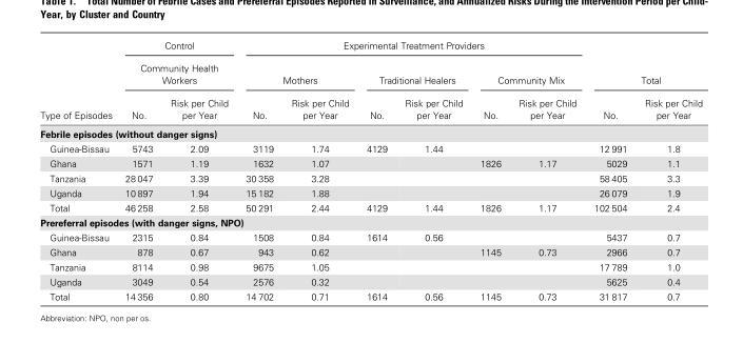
<table><thead><tr><td rowspan="3">Type of Episodes</td><td rowspan="2" colspan="2">Control Community Health Workers</td><td colspan="6">Experimental Treatment Providers</td><td rowspan="2" colspan="2">Total</td></tr><tr><td colspan="2">Mothers</td><td colspan="2">Traditional Healers</td><td colspan="2">Community Mix</td></tr><tr><td>No.</td><td>Risk per Child per Year</td><td>No.</td><td>Risk per Child per Year</td><td>No.</td><td>Risk per Child per Year</td><td>No.</td><td>Risk per Child per Year</td><td>No.</td><td>Risk per Child per Year</td></tr></thead><tbody><tr><td colspan="11">Febrile episodes (without danger signs)</td></tr><tr><td>Guinea-Bissau</td><td>5743</td><td>2.09</td><td>3119</td><td>1.74</td><td>4129</td><td>1.44</td><td></td><td></td><td>12 991</td><td>1.8</td></tr><tr><td>Ghana</td><td>1571</td><td>1.19</td><td>1632</td><td>1.07</td><td></td><td></td><td>1826</td><td>1.17</td><td>5029</td><td>1.1</td></tr><tr><td>Tanzania</td><td>28 047</td><td>3.39</td><td>30 358</td><td>3.28</td><td></td><td></td><td></td><td></td><td>58 405</td><td>3.3</td></tr><tr><td>Uganda</td><td>10 897</td><td>1.94</td><td>15 182</td><td>1.88</td><td></td><td></td><td></td><td></td><td>26 079</td><td>1.9</td></tr><tr><td>Total</td><td>46 258</td><td>2.58</td><td>50 291</td><td>2.44</td><td>4129</td><td>1.44</td><td>1826</td><td>1.17</td><td>102 504</td><td>2.4</td></tr><tr><td colspan="11">Prereferral episodes (with danger signs, NPO)</td></tr><tr><td>Guinea-Bissau</td><td>2315</td><td>0.84</td><td>1508</td><td>0.84</td><td>1614</td><td>0.56</td><td></td><td></td><td>5437</td><td>0.7</td></tr><tr><td>Ghana</td><td>878</td><td>0.67</td><td>943</td><td>0.62</td><td></td><td></td><td>1145</td><td>0.73</td><td>2966</td><td>0.7</td></tr><tr><td>Tanzania</td><td>8114</td><td>0.98</td><td>9675</td><td>1.05</td><td></td><td></td><td></td><td></td><td>17 789</td><td>1.0</td></tr><tr><td>Uganda</td><td>3049</td><td>0.54</td><td>2576</td><td>0.32</td><td></td><td></td><td></td><td></td><td>5625</td><td>0.4</td></tr><tr><td>Total</td><td>14 356</td><td>0.80</td><td>14 702</td><td>0.71</td><td>1614</td><td>0.56</td><td>1145</td><td>0.73</td><td>31 817</td><td>0.7</td></tr></tbody></table>